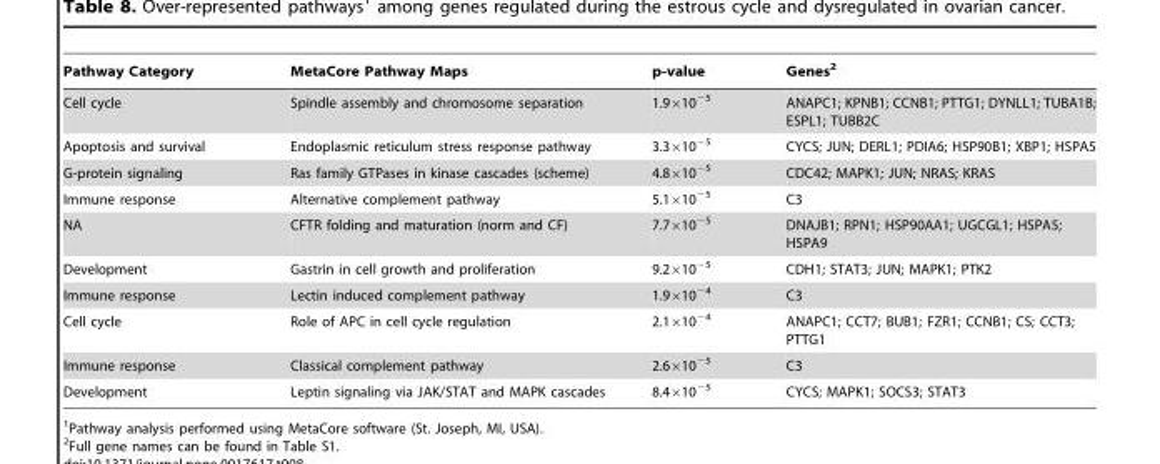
<table><thead><tr><td>Pathway Category</td><td>MetaCore Pathway Maps</td><td>p-value</td><td>Genes<sup>2</sup></td></tr></thead><tbody><tr><td>Cell cycle</td><td>Spindle assembly and chromosome separation</td><td>1.9×10<sup>−5</sup></td><td>ANAPC1; KPNB1; CCNB1; PTTG1; DYNLL1; TUBA1B; ESPL1; TUBB2C</td></tr><tr><td>Apoptosis and survival</td><td>Endoplasmic reticulum stress response pathway</td><td>3.3×10<sup>−5</sup></td><td>CYCS; JUN; DERL1; PDIA6; HSP90B1; XBP1; HSPA5</td></tr><tr><td>G-protein signaling</td><td>Ras family GTPases in kinase cascades (scheme)</td><td>4.8×10<sup>−5</sup></td><td>CDC42; MAPK1; JUN; NRAS; KRAS</td></tr><tr><td>Immune response</td><td>Alternative complement pathway</td><td>5.1×10<sup>−5</sup></td><td>C3</td></tr><tr><td>NA</td><td>CFTR folding and maturation (norm and CF)</td><td>7.7×10<sup>−5</sup></td><td>DNAJB1; RPN1; HSP90AA1; UGCGL1; HSPA5; HSPA9</td></tr><tr><td>Development</td><td>Gastrin in cell growth and proliferation</td><td>9.2×10<sup>−5</sup></td><td>CDH1; STAT3; JUN; MAPK1; PTK2</td></tr><tr><td>Immune response</td><td>Lectin induced complement pathway</td><td>1.9×10<sup>−4</sup></td><td>C3</td></tr><tr><td>Cell cycle</td><td>Role of APC in cell cycle regulation</td><td>2.1×10<sup>−4</sup></td><td>ANAPC1; CCT7; BUB1; FZR1; CCNB1; CS; CCT3; PTTG1</td></tr><tr><td>Immune response</td><td>Classical complement pathway</td><td>2.6×10<sup>−5</sup></td><td>C3</td></tr><tr><td>Development</td><td>Leptin signaling via JAK/STAT and MAPK cascades</td><td>8.4×10<sup>−5</sup></td><td>CYCS; MAPK1; SOCS3; STAT3</td></tr></tbody></table>